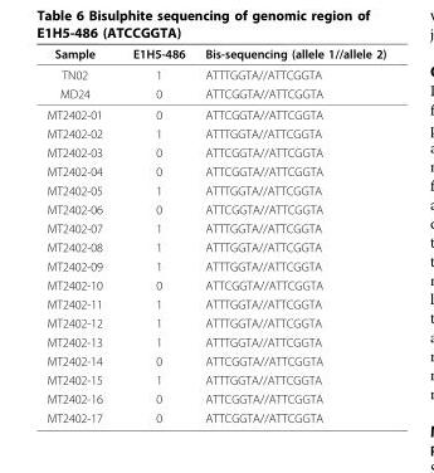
<table><thead><tr><td>Sample</td><td>E1H5-486</td><td>Bis-sequencing (allele 1//allele 2)</td></tr></thead><tbody><tr><td>TN02</td><td>1</td><td>ATTTGGTA//ATTCGGTA</td></tr><tr><td>MD24</td><td>0</td><td>ATTCGGTA//ATTCGGTA</td></tr><tr><td>MT2402-01</td><td>0</td><td>ATTCGGTA//ATTCGGTA</td></tr><tr><td>MT2402-02</td><td>1</td><td>ATTTGGTA//ATTCGGTA</td></tr><tr><td>MT2402-03</td><td>0</td><td>ATTCGGTA//ATTCGGTA</td></tr><tr><td>MT2402-04</td><td>0</td><td>ATTCGGTA//ATTCGGTA</td></tr><tr><td>MT2402-05</td><td>1</td><td>ATTTGGTA//ATTCGGTA</td></tr><tr><td>MT2402-06</td><td>0</td><td>ATTCGGTA//ATTCGGTA</td></tr><tr><td>MT2402-07</td><td>1</td><td>ATTTGGTA//ATTCGGTA</td></tr><tr><td>MT2402-08</td><td>1</td><td>ATTTGGTA//ATTCGGTA</td></tr><tr><td>MT2402-09</td><td>1</td><td>ATTTGGTA//ATTCGGTA</td></tr><tr><td>MT2402-10</td><td>0</td><td>ATTCGGTA//ATTCGGTA</td></tr><tr><td>MT2402-11</td><td>1</td><td>ATTTGGTA//ATTCGGTA</td></tr><tr><td>MT2402-12</td><td>1</td><td>ATTTGGTA//ATTCGGTA</td></tr><tr><td>MT2402-13</td><td>1</td><td>ATTTGGTA//ATTCGGTA</td></tr><tr><td>MT2402-14</td><td>0</td><td>ATTCGGTA//ATTCGGTA</td></tr><tr><td>MT2402-15</td><td>1</td><td>ATTTGGTA//ATTCGGTA</td></tr><tr><td>MT2402-16</td><td>0</td><td>ATTCGGTA//ATTCGGTA</td></tr><tr><td>MT2402-17</td><td>0</td><td>ATTCGGTA//ATTCGGTA</td></tr></tbody></table>